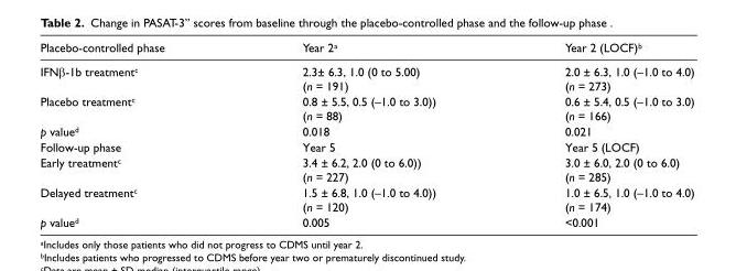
<table><thead><tr><td>Placebo-controlled phase</td><td>Year 2<sup>a</sup></td><td>Year 2 (LOCF)<sup>b</sup></td></tr></thead><tbody><tr><td>IFNβ-1b treatment<sup>c</sup></td><td>2.3± 6.3, 1.0 (0 to 5.00) (n = 191)</td><td>2.0 ± 6.3, 1.0 (–1.0 to 4.0) (n = 273)</td></tr><tr><td>Placebo treatment<sup>c</sup></td><td>0.8 ± 5.5, 0.5 (–1.0 to 3.0)) (n = 88)</td><td>0.6 ± 5.4, 0.5 (–1.0 to 3.0) (n = 166)</td></tr><tr><td>p value<sup>d</sup></td><td>0.018</td><td>0.021</td></tr><tr><td>Follow-up phase</td><td>Year 5</td><td>Year 5 (LOCF)</td></tr><tr><td>Early treatment<sup>c</sup></td><td>3.4 ± 6.2, 2.0 (0 to 6.0)) (n = 227)</td><td>3.0 ± 6.0, 2.0 (0 to 6.0) (n = 285)</td></tr><tr><td>Delayed treatment<sup>c</sup></td><td>1.5 ± 6.8, 1.0 (–1.0 to 4.0)) (n = 120)</td><td>1.0 ± 6.5, 1.0 (–1.0 to 4.0) (n = 174)</td></tr><tr><td>p value<sup>d</sup></td><td>0.005</td><td>&lt;0.001</td></tr></tbody></table>